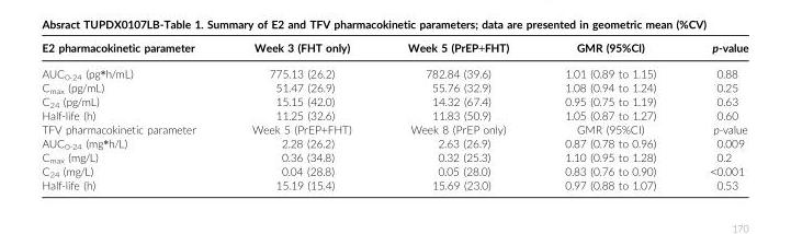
<table><thead><tr><td>E2 pharmacokinetic parameter</td><td>Week 3 (FHT only)</td><td>Week 5 (PrEP+FHT)</td><td>GMR (95%CI)</td><td>p-value</td></tr></thead><tbody><tr><td>AUC0-24 (pg*h/mL)</td><td>775.13 (26.2)</td><td>782.84 (39.6)</td><td>1.01 (0.89 to 1.15)</td><td>0.88</td></tr><tr><td>Cmax (pg/mL)</td><td>51.47 (26.9)</td><td>55.76 (32.9)</td><td>1.08 (0.94 to 1.24)</td><td>0.25</td></tr><tr><td>C24 (pg/mL)</td><td>15.15 (42.0)</td><td>14.32 (67.4)</td><td>0.95 (0.75 to 1.19)</td><td>0.63</td></tr><tr><td>Half-life (h)</td><td>11.25 (32.6)</td><td>11.83 (50.9)</td><td>1.05 (0.87 to 1.27)</td><td>0.60</td></tr><tr><td>TFV pharmacokinetic parameter</td><td>Week 5 (PrEP+FHT)</td><td>Week 8 (PrEP only)</td><td>GMR (95%CI)</td><td>p-value</td></tr><tr><td>AUC0-24 (mg*h/L)</td><td>2.28 (26.2)</td><td>2.63 (26.9)</td><td>0.87 (0.78 to 0.96)</td><td>0.009</td></tr><tr><td>Cmax (mg/L)</td><td>0.36 (34.8)</td><td>0.32 (25.3)</td><td>1.10 (0.95 to 1.28)</td><td>0.2</td></tr><tr><td>C24 (mg/L)</td><td>0.04 (28.8)</td><td>0.05 (28.0)</td><td>0.83 (0.76 to 0.90)</td><td>&lt;0.001</td></tr><tr><td>Half-life (h)</td><td>15.19 (15.4)</td><td>15.69 (23.0)</td><td>0.97 (0.88 to 1.07)</td><td>0.53</td></tr></tbody></table>